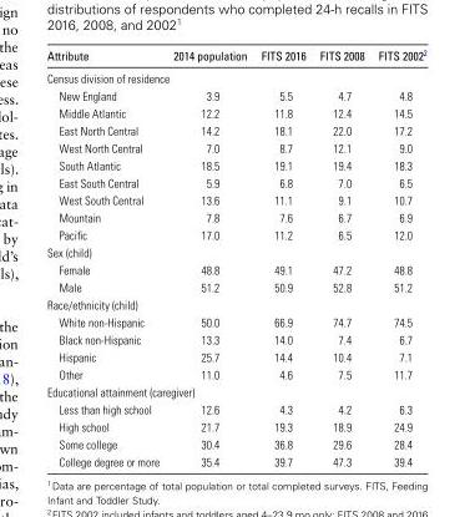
<table><thead><tr><td>Attribute</td><td>2014 population</td><td>FITS 2016</td><td>FITS 2008</td><td>FITS 2002<sup>2</sup></td></tr></thead><tbody><tr><td colspan="5">Census division of residence</td></tr><tr><td>New England</td><td>3.9</td><td>5.5</td><td>4.7</td><td>4.8</td></tr><tr><td>Middle Atlantic</td><td>12.2</td><td>11.8</td><td>12.4</td><td>14.5</td></tr><tr><td>East North Central</td><td>14.2</td><td>18.1</td><td>22.0</td><td>17.2</td></tr><tr><td>West North Central</td><td>7.0</td><td>8.7</td><td>12.1</td><td>9.0</td></tr><tr><td>South Atlantic</td><td>18.5</td><td>19.1</td><td>19.4</td><td>18.3</td></tr><tr><td>East South Central</td><td>5.9</td><td>6.8</td><td>7.0</td><td>6.5</td></tr><tr><td>West South Central</td><td>13.6</td><td>11.1</td><td>9.1</td><td>10.7</td></tr><tr><td>Mountain</td><td>7.8</td><td>7.6</td><td>6.7</td><td>6.9</td></tr><tr><td>Pacific</td><td>17.0</td><td>11.2</td><td>6.5</td><td>12.0</td></tr><tr><td colspan="5">Sex (child)</td></tr><tr><td>Female</td><td>48.8</td><td>49.1</td><td>47.2</td><td>48.8</td></tr><tr><td>Male</td><td>51.2</td><td>50.9</td><td>52.8</td><td>51.2</td></tr><tr><td colspan="5">Race/ethnicity (child)</td></tr><tr><td>White non-Hispanic</td><td>50.0</td><td>66.9</td><td>74.7</td><td>74.5</td></tr><tr><td>Black non-Hispanic</td><td>13.3</td><td>14.0</td><td>7.4</td><td>6.7</td></tr><tr><td>Hispanic</td><td>25.7</td><td>14.4</td><td>10.4</td><td>7.1</td></tr><tr><td>Other</td><td>11.0</td><td>4.6</td><td>7.5</td><td>11.7</td></tr><tr><td colspan="5">Educational attainment (caregiver)</td></tr><tr><td>Less than high school</td><td>12.6</td><td>4.3</td><td>4.2</td><td>6.3</td></tr><tr><td>High school</td><td>21.7</td><td>19.3</td><td>18.9</td><td>24.9</td></tr><tr><td>Some college</td><td>30.4</td><td>36.8</td><td>29.6</td><td>28.4</td></tr><tr><td>College degree or more</td><td>35.4</td><td>39.7</td><td>47.3</td><td>39.4</td></tr></tbody></table>